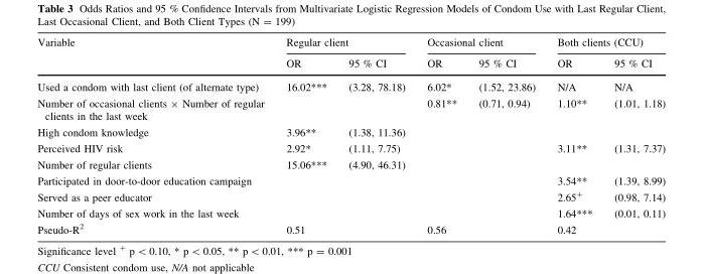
<table><thead><tr><td rowspan="2">Variable</td><td colspan="2">Regular client</td><td colspan="2">Occasional client</td><td colspan="2">Both clients (CCU)</td></tr><tr><td>OR</td><td>95 % CI</td><td>OR</td><td>95 % CI</td><td>OR</td><td>95 % CI</td></tr></thead><tbody><tr><td>Used a condom with last client (of alternate type)</td><td>16.02***</td><td>(3.28, 78.18)</td><td>6.02*</td><td>(1.52, 23.86)</td><td>N/A</td><td>N/A</td></tr><tr><td>Number of occasional clients × Number of regular clients in the last week</td><td></td><td></td><td>0.81**</td><td>(0.71, 0.94)</td><td>1.10**</td><td>(1.01, 1.18)</td></tr><tr><td>High condom knowledge</td><td>3.96**</td><td>(1.38, 11.36)</td><td></td><td></td><td></td><td></td></tr><tr><td>Perceived HIV risk</td><td>2.92*</td><td>(1.11, 7.75)</td><td></td><td></td><td>3.11**</td><td>(1.31, 7.37)</td></tr><tr><td>Number of regular clients</td><td>15.06***</td><td>(4.90, 46.31)</td><td></td><td></td><td></td><td></td></tr><tr><td>Participated in door-to-door education campaign</td><td></td><td></td><td></td><td></td><td>3.54**</td><td>(1.39, 8.99)</td></tr><tr><td>Served as a peer educator</td><td></td><td></td><td></td><td></td><td>2.65<sup>+</sup></td><td>(0.98, 7.14)</td></tr><tr><td>Number of days of sex work in the last week</td><td></td><td></td><td></td><td></td><td>1.64***</td><td>(0.01, 0.11)</td></tr><tr><td>Pseudo-R<sup>2</sup></td><td>0.51</td><td></td><td>0.56</td><td></td><td>0.42</td><td></td></tr></tbody></table>